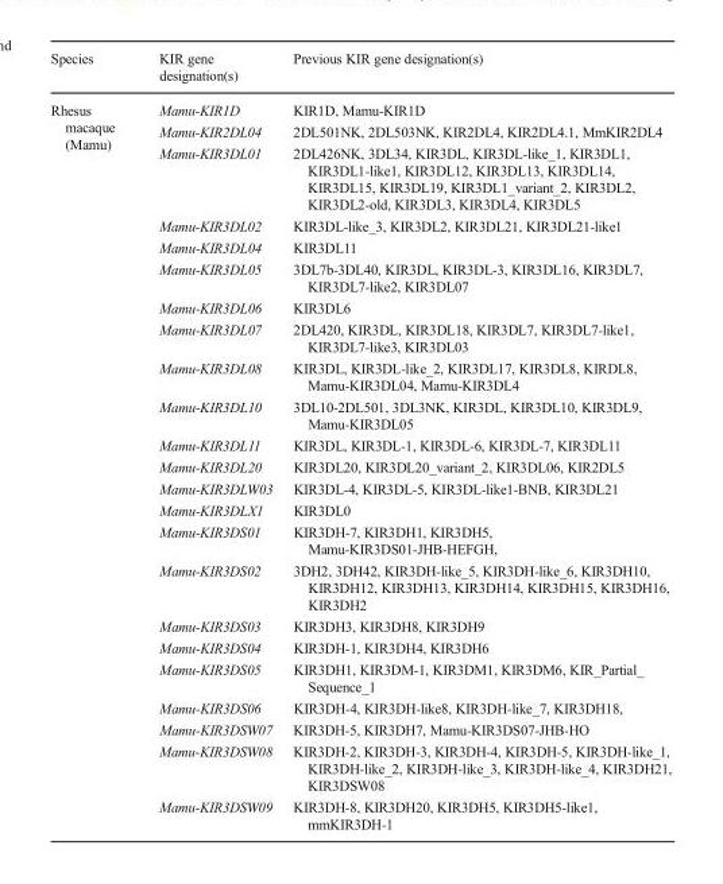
<table><thead><tr><td>Species</td><td>KIR gene designation(s)</td><td>Previous KIR gene designation(s)</td></tr></thead><tbody><tr><td rowspan="23">Rhesus macaque (Mamu)</td><td>Mamu-KIR1D</td><td>KIR1D, Mamu-KIR1D</td></tr><tr><td>Mamu-KIR2DL04</td><td>2DL501NK, 2DL503NK, KIR2DL4, KIR2DL4.1, MmKIR2DL4</td></tr><tr><td>Mamu-KIR3DL01</td><td>2DL426NK, 3DL34, KIR3DL, KIR3DL-like_1, KIR3DL1, KIR3DL1-like1, KIR3DL12, KIR3DL13, KIR3DL14, KIR3DL15, KIR3DL19, KIR3DL1_variant_2, KIR3DL2, KIR3DL2-old, KIR3DL3, KIR3DL4, KIR3DL5</td></tr><tr><td>Mamu-KIR3DL02</td><td>KIR3DL-like_3, KIR3DL2, KIR3DL21, KIR3DL21-like1</td></tr><tr><td>Mamu-KIR3DL04</td><td>KIR3DL11</td></tr><tr><td>Mamu-KIR3DL05</td><td>3DL7b-3DL40, KIR3DL, KIR3DL-3, KIR3DL16, KIR3DL7, KIR3DL7-like2, KIR3DL07</td></tr><tr><td>Mamu-KIR3DL06</td><td>KIR3DL6</td></tr><tr><td>Mamu-KIR3DL07</td><td>2DL420, KIR3DL, KIR3DL18, KIR3DL7, KIR3DL7-like1, KIR3DL7-like3, KIR3DL03</td></tr><tr><td>Mamu-KIR3DL08</td><td>KIR3DL, KIR3DL-like_2, KIR3DL17, KIR3DL8, KIRDL8, Mamu-KIR3DL04, Mamu-KIR3DL4</td></tr><tr><td>Mamu-KIR3DL10</td><td>3DL10-2DL501, 3DL3NK, KIR3DL, KIR3DL10, KIR3DL9, Mamu-KIR3DL05</td></tr><tr><td>Mamu-KIR3DL11</td><td>KIR3DL, KIR3DL-1, KIR3DL-6, KIR3DL-7, KIR3DL11</td></tr><tr><td>Mamu-KIR3DL20</td><td>KIR3DL20, KIR3DL20_variant_2, KIR3DL06, KIR2DL5</td></tr><tr><td>Mamu-KIR3DLW03</td><td>KIR3DL-4, KIR3DL-5, KIR3DL-like1-BNB, KIR3DL21</td></tr><tr><td>Mamu-KIR3DLX1</td><td>KIR3DL0</td></tr><tr><td>Mamu-KIR3DS01</td><td>KIR3DH-7, KIR3DH1, KIR3DH5, Mamu-KIR3DS01-JHB-HEFGH,</td></tr><tr><td>Mamu-KIR3DS02</td><td>3DH2, 3DH42, KIR3DH-like_5, KIR3DH-like_6, KIR3DH10, KIR3DH12, KIR3DH13, KIR3DH14, KIR3DH15, KIR3DH16, KIR3DH2</td></tr><tr><td>Mamu-KIR3DS03</td><td>KIR3DH3, KIR3DH8, KIR3DH9</td></tr><tr><td>Mamu-KIR3DS04</td><td>KIR3DH-1, KIR3DH4, KIR3DH6</td></tr><tr><td>Mamu-KIR3DS05</td><td>KIR3DH1, KIR3DM-1, KIR3DM1, KIR3DM6, KIR_Partial_ Sequence_1</td></tr><tr><td>Mamu-KIR3DS06</td><td>KIR3DH-4, KIR3DH-like8, KIR3DH-like_7, KIR3DH18,</td></tr><tr><td>Mamu-KIR3DSW07</td><td>KIR3DH-5, KIR3DH7, Mamu-KIR3DS07-JHB-HO</td></tr><tr><td>Mamu-KIR3DSW08</td><td>KIR3DH-2, KIR3DH-3, KIR3DH-4, KIR3DH-5, KIR3DH-like_1, KIR3DH-like_2, KIR3DH-like_3, KIR3DH-like_4, KIR3DH21, KIR3DSW08</td></tr><tr><td>Mamu-KIR3DSW09</td><td>KIR3DH-8, KIR3DH20, KIR3DH5, KIR3DH5-like1, mmKIR3DH-1</td></tr></tbody></table>